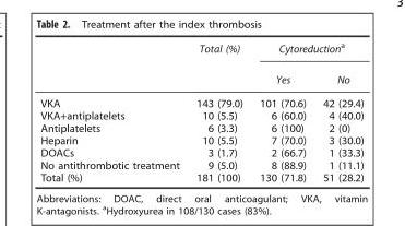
<table><thead><tr><td rowspan="2"></td><td rowspan="2">Total (%)</td><td colspan="2">Cytoreduction<sup>a</sup></td></tr><tr><td>Yes</td><td>No</td></tr></thead><tbody><tr><td>VKA</td><td>143 (79.0)</td><td>101 (70.6)</td><td>42 (29.4)</td></tr><tr><td>VKA+antiplatelets</td><td>10 (5.5)</td><td>6 (60.0)</td><td>4 (40.0)</td></tr><tr><td>Antiplatelets</td><td>6 (3.3)</td><td>6 (100)</td><td>2 (0)</td></tr><tr><td>Heparin</td><td>10 (5.5)</td><td>7 (70.0)</td><td>3 (30.0)</td></tr><tr><td>DOACs</td><td>3 (1.7)</td><td>2 (66.7)</td><td>1 (33.3)</td></tr><tr><td>No antithrombotic treatment</td><td>9 (5.0)</td><td>8 (88.9)</td><td>1 (11.1)</td></tr><tr><td>Total (%)</td><td>181 (100)</td><td>130 (71.8)</td><td>51 (28.2)</td></tr></tbody></table>